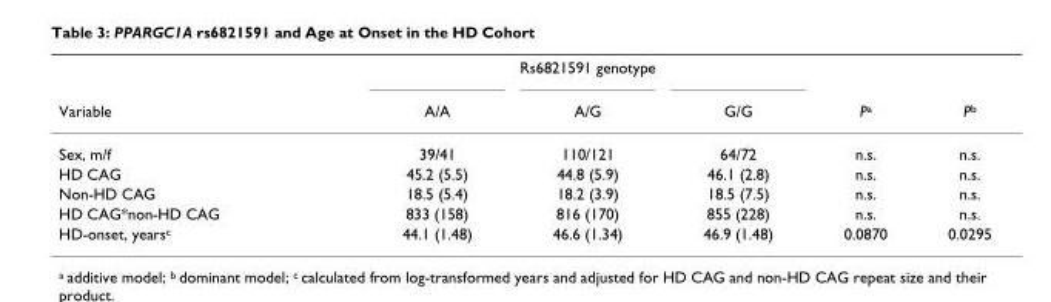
<table><thead><tr><td rowspan="2">Variable</td><td colspan="3">Rs6821591 genotype</td><td rowspan="2">P<sup>a</sup></td><td rowspan="2">P<sup>b</sup></td></tr><tr><td>A/A</td><td>A/G</td><td>G/G</td></tr></thead><tbody><tr><td>Sex, m/f</td><td>39/41</td><td>110/121</td><td>64/72</td><td>n.s.</td><td>n.s.</td></tr><tr><td>HD CAG</td><td>45.2 (5.5)</td><td>44.8 (5.9)</td><td>46.1 (2.8)</td><td>n.s.</td><td>n.s.</td></tr><tr><td>Non-HD CAG</td><td>18.5 (5.4)</td><td>18.2 (3.9)</td><td>18.5 (7.5)</td><td>n.s.</td><td>n.s.</td></tr><tr><td>HD CAG*non-HD CAG</td><td>833 (158)</td><td>816 (170)</td><td>855 (228)</td><td>n.s.</td><td>n.s.</td></tr><tr><td>HD-onset, years<sup>c</sup></td><td>44.1 (1.48)</td><td>46.6 (1.34)</td><td>46.9 (1.48)</td><td>0.0870</td><td>0.0295</td></tr></tbody></table>